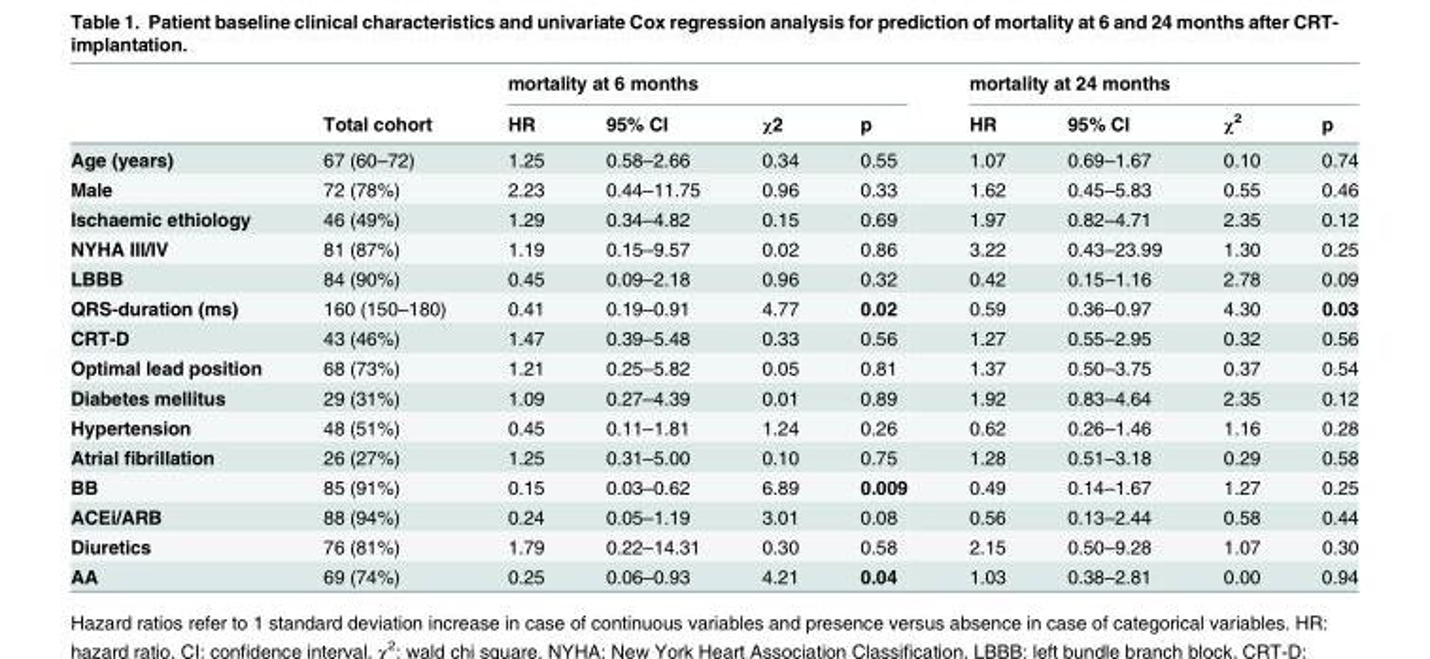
<table><thead><tr><td rowspan="2"></td><td rowspan="2">Total cohort</td><td colspan="4">mortality at 6 months</td><td colspan="4">mortality at 24 months</td></tr><tr><td>HR</td><td>95% CI</td><td>χ2</td><td>p</td><td>HR</td><td>95% CI</td><td>χ<sup>2</sup></td><td>p</td></tr></thead><tbody><tr><td>Age (years)</td><td>67 (60–72)</td><td>1.25</td><td>0.58–2.66</td><td>0.34</td><td>0.55</td><td>1.07</td><td>0.69–1.67</td><td>0.10</td><td>0.74</td></tr><tr><td>Male</td><td>72 (78%)</td><td>2.23</td><td>0.44–11.75</td><td>0.96</td><td>0.33</td><td>1.62</td><td>0.45–5.83</td><td>0.55</td><td>0.46</td></tr><tr><td>Ischaemic ethiology</td><td>46 (49%)</td><td>1.29</td><td>0.34–4.82</td><td>0.15</td><td>0.69</td><td>1.97</td><td>0.82–4.71</td><td>2.35</td><td>0.12</td></tr><tr><td>NYHA III/IV</td><td>81 (87%)</td><td>1.19</td><td>0.15–9.57</td><td>0.02</td><td>0.86</td><td>3.22</td><td>0.43–23.99</td><td>1.30</td><td>0.25</td></tr><tr><td>LBBB</td><td>84 (90%)</td><td>0.45</td><td>0.09–2.18</td><td>0.96</td><td>0.32</td><td>0.42</td><td>0.15–1.16</td><td>2.78</td><td>0.09</td></tr><tr><td>QRS-duration (ms)</td><td>160 (150–180)</td><td>0.41</td><td>0.19–0.91</td><td>4.77</td><td>0.02</td><td>0.59</td><td>0.36–0.97</td><td>4.30</td><td>0.03</td></tr><tr><td>CRT-D</td><td>43 (46%)</td><td>1.47</td><td>0.39–5.48</td><td>0.33</td><td>0.56</td><td>1.27</td><td>0.55–2.95</td><td>0.32</td><td>0.56</td></tr><tr><td>Optimal lead position</td><td>68 (73%)</td><td>1.21</td><td>0.25–5.82</td><td>0.05</td><td>0.81</td><td>1.37</td><td>0.50–3.75</td><td>0.37</td><td>0.54</td></tr><tr><td>Diabetes mellitus</td><td>29 (31%)</td><td>1.09</td><td>0.27–4.39</td><td>0.01</td><td>0.89</td><td>1.92</td><td>0.83–4.64</td><td>2.35</td><td>0.12</td></tr><tr><td>Hypertension</td><td>48 (51%)</td><td>0.45</td><td>0.11–1.81</td><td>1.24</td><td>0.26</td><td>0.62</td><td>0.26–1.46</td><td>1.16</td><td>0.28</td></tr><tr><td>Atrial fibrillation</td><td>26 (27%)</td><td>1.25</td><td>0.31–5.00</td><td>0.10</td><td>0.75</td><td>1.28</td><td>0.51–3.18</td><td>0.29</td><td>0.58</td></tr><tr><td>BB</td><td>85 (91%)</td><td>0.15</td><td>0.03–0.62</td><td>6.89</td><td>0.009</td><td>0.49</td><td>0.14–1.67</td><td>1.27</td><td>0.25</td></tr><tr><td>ACEi/ARB</td><td>88 (94%)</td><td>0.24</td><td>0.05–1.19</td><td>3.01</td><td>0.08</td><td>0.56</td><td>0.13–2.44</td><td>0.58</td><td>0.44</td></tr><tr><td>Diuretics</td><td>76 (81%)</td><td>1.79</td><td>0.22–14.31</td><td>0.30</td><td>0.58</td><td>2.15</td><td>0.50–9.28</td><td>1.07</td><td>0.30</td></tr><tr><td>AA</td><td>69 (74%)</td><td>0.25</td><td>0.06–0.93</td><td>4.21</td><td>0.04</td><td>1.03</td><td>0.38–2.81</td><td>0.00</td><td>0.94</td></tr></tbody></table>